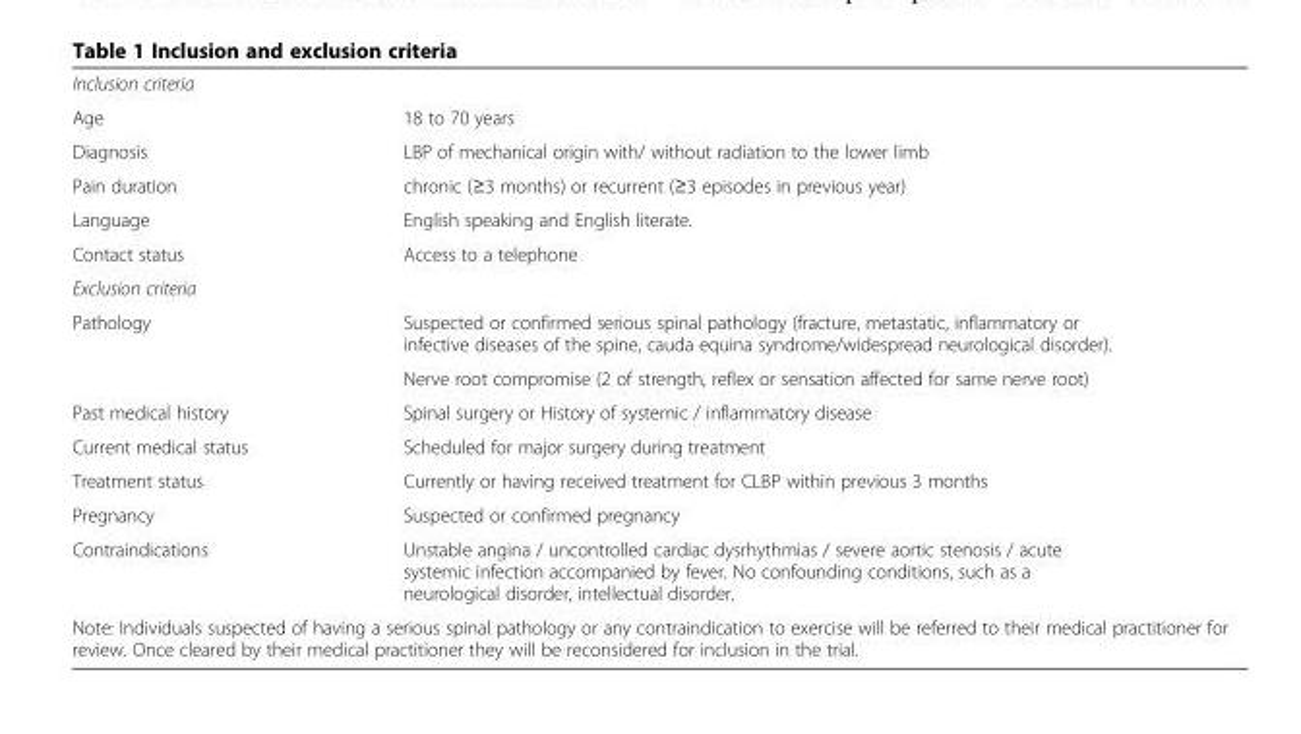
<table><tbody><tr><td colspan="2">Inclusion criteria</td></tr><tr><td>Age</td><td>18 to 70 years</td></tr><tr><td>Diagnosis</td><td>LBP of mechanical origin with/ without radiation to the lower limb</td></tr><tr><td>Pain duration</td><td>chronic (≥3 months) or recurrent (≥3 episodes in previous year)</td></tr><tr><td>Language</td><td>English speaking and English literate.</td></tr><tr><td>Contact status</td><td>Access to a telephone</td></tr><tr><td colspan="2">Exclusion criteria</td></tr><tr><td rowspan="2">Pathology</td><td>Suspected or confirmed serious spinal pathology (fracture, metastatic, inflammatory or infective diseases of the spine, cauda equina syndrome/widespread neurological disorder).</td></tr><tr><td>Nerve root compromise (2 of strength, reflex or sensation affected for same nerve root)</td></tr><tr><td>Past medical history</td><td>Spinal surgery or History of systemic / inflammatory disease</td></tr><tr><td>Current medical status</td><td>Scheduled for major surgery during treatment</td></tr><tr><td>Treatment status</td><td>Currently or having received treatment for CLBP within previous 3 months</td></tr><tr><td>Pregnancy</td><td>Suspected or confirmed pregnancy</td></tr><tr><td>Contraindications</td><td>Unstable angina / uncontrolled cardiac dysrhythmias / severe aortic stenosis / acute systemic infection accompanied by fever. No confounding conditions, such as a neurological disorder, intellectual disorder.</td></tr><tr><td colspan="2">Note: Individuals suspected of having a serious spinal pathology or any contraindication to exercise will be referred to their medical practitioner for review. Once cleared by their medical practitioner they will be reconsidered for inclusion in the trial.</td></tr></tbody></table>